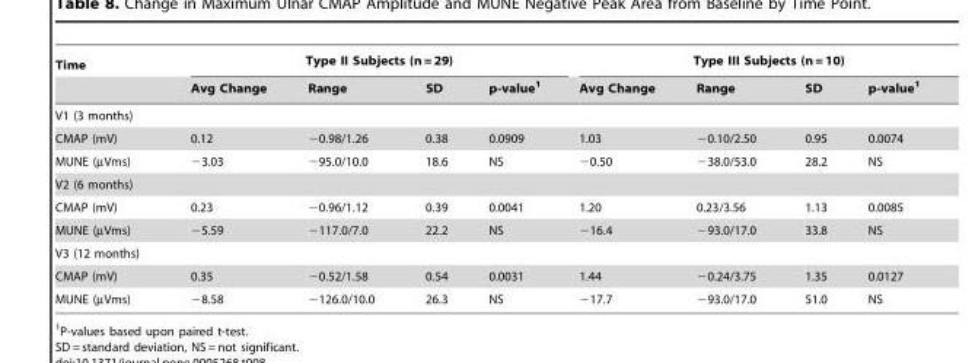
<table><thead><tr><td rowspan="2">Time</td><td colspan="4">Type II Subjects (n = 29)</td><td colspan="4">Type III Subjects (n = 10)</td></tr><tr><td>Avg Change</td><td>Range</td><td>SD</td><td>p-value<sup>1</sup></td><td>Avg Change</td><td>Range</td><td>SD</td><td>p-value<sup>1</sup></td></tr></thead><tbody><tr><td colspan="9">V1 (3 months)</td></tr><tr><td>CMAP (mV)</td><td>0.12</td><td>−0.98/1.26</td><td>0.38</td><td>0.0909</td><td>1.03</td><td>−0.10/2.50</td><td>0.95</td><td>0.0074</td></tr><tr><td>MUNE (µVms)</td><td>−3.03</td><td>−95.0/10.0</td><td>18.6</td><td>NS</td><td>−0.50</td><td>−38.0/53.0</td><td>28.2</td><td>NS</td></tr><tr><td colspan="9">V2 (6 months)</td></tr><tr><td>CMAP (mV)</td><td>0.23</td><td>−0.96/1.12</td><td>0.39</td><td>0.0041</td><td>1.20</td><td>0.23/3.56</td><td>1.13</td><td>0.0085</td></tr><tr><td>MUNE (µVms)</td><td>−5.59</td><td>−117.0/7.0</td><td>22.2</td><td>NS</td><td>−16.4</td><td>−93.0/17.0</td><td>33.8</td><td>NS</td></tr><tr><td colspan="9">V3 (12 months)</td></tr><tr><td>CMAP (mV)</td><td>0.35</td><td>−0.52/1.58</td><td>0.54</td><td>0.0031</td><td>1.44</td><td>−0.24/3.75</td><td>1.35</td><td>0.0127</td></tr><tr><td>MUNE (µVms)</td><td>−8.58</td><td>−126.0/10.0</td><td>26.3</td><td>NS</td><td>−17.7</td><td>−93.0/17.0</td><td>51.0</td><td>NS</td></tr></tbody></table>